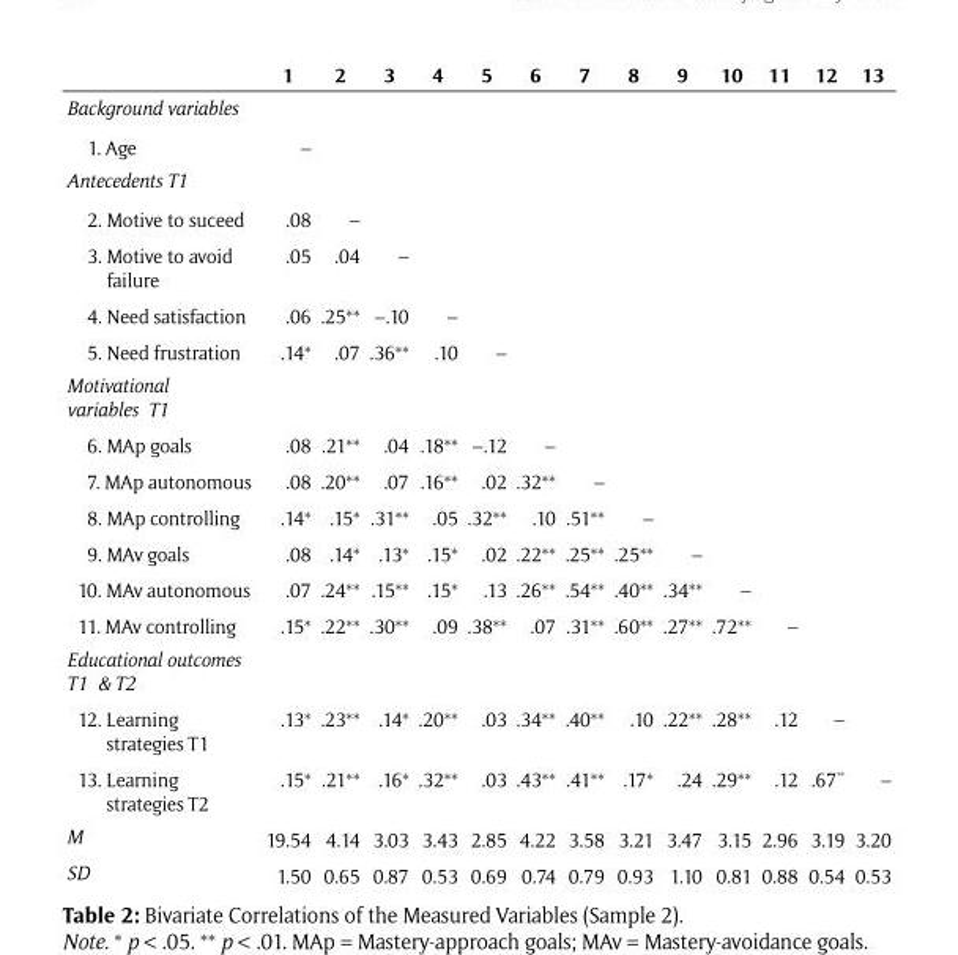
<table><thead><tr><td></td><td>1</td><td>2</td><td>3</td><td>4</td><td>5</td><td>6</td><td>7</td><td>8</td><td>9</td><td>10</td><td>11</td><td>12</td><td>13</td></tr></thead><tbody><tr><td colspan="14">Background variables</td></tr><tr><td>1. Age</td><td>–</td><td></td><td></td><td></td><td></td><td></td><td></td><td></td><td></td><td></td><td></td><td></td><td></td></tr><tr><td colspan="14">Antecedents T1</td></tr><tr><td>2. Motive to suceed</td><td>.08</td><td>–</td><td></td><td></td><td></td><td></td><td></td><td></td><td></td><td></td><td></td><td></td><td></td></tr><tr><td>3. Motive to avoid failure</td><td>.05</td><td>.04</td><td>–</td><td></td><td></td><td></td><td></td><td></td><td></td><td></td><td></td><td></td><td></td></tr><tr><td>4. Need satisfaction</td><td>.06</td><td>.25**</td><td>–.10</td><td>–</td><td></td><td></td><td></td><td></td><td></td><td></td><td></td><td></td><td></td></tr><tr><td>5. Need frustration</td><td>.14*</td><td>.07</td><td>.36**</td><td>.10</td><td>–</td><td></td><td></td><td></td><td></td><td></td><td></td><td></td><td></td></tr><tr><td colspan="14">Motivational variables T1</td></tr><tr><td>6. MAp goals</td><td>.08</td><td>.21**</td><td>.04</td><td>.18**</td><td>–.12</td><td>–</td><td></td><td></td><td></td><td></td><td></td><td></td><td></td></tr><tr><td>7. MAp autonomous</td><td>.08</td><td>.20**</td><td>.07</td><td>.16**</td><td>.02</td><td>.32**</td><td>–</td><td></td><td></td><td></td><td></td><td></td><td></td></tr><tr><td>8. MAp controlling</td><td>.14*</td><td>.15*</td><td>.31**</td><td>.05</td><td>.32**</td><td>.10</td><td>.51**</td><td>–</td><td></td><td></td><td></td><td></td><td></td></tr><tr><td>9. MAv goals</td><td>.08</td><td>.14*</td><td>.13*</td><td>.15*</td><td>.02</td><td>.22**</td><td>.25**</td><td>.25**</td><td>–</td><td></td><td></td><td></td><td></td></tr><tr><td>10. MAv autonomous</td><td>.07</td><td>.24**</td><td>.15**</td><td>.15*</td><td>.13</td><td>.26**</td><td>.54**</td><td>.40**</td><td>.34**</td><td>–</td><td></td><td></td><td></td></tr><tr><td>11. MAv controlling</td><td>.15*</td><td>.22**</td><td>.30**</td><td>.09</td><td>.38**</td><td>.07</td><td>.31**</td><td>.60**</td><td>.27**</td><td>.72**</td><td>–</td><td></td><td></td></tr><tr><td colspan="14">Educational outcomes T1 &amp; T2</td></tr><tr><td>12. Learning strategies T1</td><td>.13*</td><td>.23**</td><td>.14*</td><td>.20**</td><td>.03</td><td>.34**</td><td>.40**</td><td>.10</td><td>.22**</td><td>.28**</td><td>.12</td><td>–</td><td></td></tr><tr><td>13. Learning strategies T2</td><td>.15*</td><td>.21**</td><td>.16*</td><td>.32**</td><td>.03</td><td>.43**</td><td>.41**</td><td>.17*</td><td>.24</td><td>.29**</td><td>.12</td><td>.67**</td><td>–</td></tr><tr><td>M</td><td>19.54</td><td>4.14</td><td>3.03</td><td>3.43</td><td>2.85</td><td>4.22</td><td>3.58</td><td>3.21</td><td>3.47</td><td>3.15</td><td>2.96</td><td>3.19</td><td>3.20</td></tr><tr><td>SD</td><td>1.50</td><td>0.65</td><td>0.87</td><td>0.53</td><td>0.69</td><td>0.74</td><td>0.79</td><td>0.93</td><td>1.10</td><td>0.81</td><td>0.88</td><td>0.54</td><td>0.53</td></tr></tbody></table>